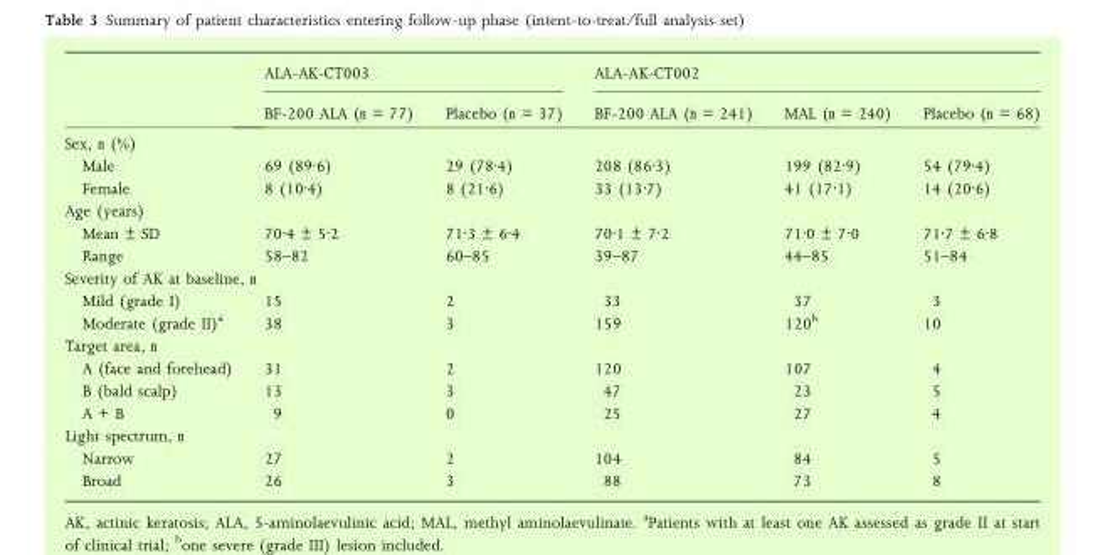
<table><thead><tr><td rowspan="2"></td><td colspan="2">ALA-AK-CT003</td><td colspan="3">ALA-AK-CT002</td></tr><tr><td>BF-200 ALA (n = 77)</td><td>Placebo (n = 37)</td><td>BF-200 ALA (n = 241)</td><td>MAL (n = 240)</td><td>Placebo (n = 68)</td></tr></thead><tbody><tr><td colspan="6">Sex, n (%)</td></tr><tr><td>Male</td><td>69 (89Æ6)</td><td>29 (78Æ4)</td><td>208 (86Æ3)</td><td>199 (82Æ9)</td><td>54 (79Æ4)</td></tr><tr><td>Female</td><td>8 (10Æ4)</td><td>8 (21Æ6)</td><td>33 (13Æ7)</td><td>41 (17Æ1)</td><td>14 (20Æ6)</td></tr><tr><td colspan="6">Age (years)</td></tr><tr><td>Mean ± SD</td><td>70Æ4 ± 5Æ2</td><td>71Æ3 ± 6Æ4</td><td>70Æ1 ± 7Æ2</td><td>71Æ0 ± 7Æ0</td><td>71Æ7 ± 6Æ8</td></tr><tr><td>Range</td><td>58–82</td><td>60–85</td><td>39–87</td><td>44–85</td><td>51–84</td></tr><tr><td colspan="6">Severity of AK at baseline, n</td></tr><tr><td>Mild (grade I)</td><td>15</td><td>2</td><td>33</td><td>37</td><td>3</td></tr><tr><td>Moderate (grade II)<sup>a</sup></td><td>38</td><td>3</td><td>159</td><td>120<sup>b</sup></td><td>10</td></tr><tr><td colspan="6">Target area, n</td></tr><tr><td>A (face and forehead)</td><td>31</td><td>2</td><td>120</td><td>107</td><td>4</td></tr><tr><td>B (bald scalp)</td><td>13</td><td>3</td><td>47</td><td>23</td><td>5</td></tr><tr><td>A + B</td><td>9</td><td>0</td><td>25</td><td>27</td><td>4</td></tr><tr><td colspan="6">Light spectrum, n</td></tr><tr><td>Narrow</td><td>27</td><td>2</td><td>104</td><td>84</td><td>5</td></tr><tr><td>Broad</td><td>26</td><td>3</td><td>88</td><td>73</td><td>8</td></tr></tbody></table>